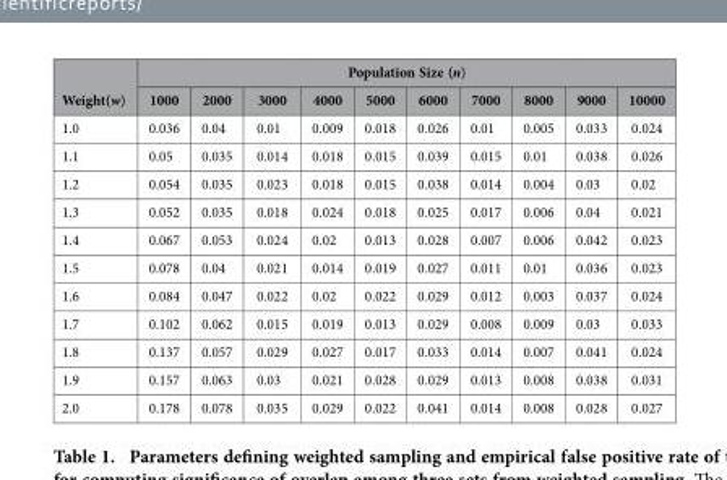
<table><thead><tr><td rowspan="2">Weight(w)</td><td colspan="10">Population Size (n)</td></tr><tr><td>1000</td><td>2000</td><td>3000</td><td>4000</td><td>5000</td><td>6000</td><td>7000</td><td>8000</td><td>9000</td><td>10000</td></tr></thead><tbody><tr><td>1.0</td><td>0.036</td><td>0.04</td><td>0.01</td><td>0.009</td><td>0.018</td><td>0.026</td><td>0.01</td><td>0.005</td><td>0.033</td><td>0.024</td></tr><tr><td>1.1</td><td>0.05</td><td>0.035</td><td>0.014</td><td>0.018</td><td>0.015</td><td>0.039</td><td>0.015</td><td>0.01</td><td>0.038</td><td>0.026</td></tr><tr><td>1.2</td><td>0.054</td><td>0.035</td><td>0.023</td><td>0.018</td><td>0.015</td><td>0.038</td><td>0.014</td><td>0.004</td><td>0.03</td><td>0.02</td></tr><tr><td>1.3</td><td>0.052</td><td>0.035</td><td>0.018</td><td>0.024</td><td>0.018</td><td>0.025</td><td>0.017</td><td>0.006</td><td>0.04</td><td>0.021</td></tr><tr><td>1.4</td><td>0.067</td><td>0.053</td><td>0.024</td><td>0.02</td><td>0.013</td><td>0.028</td><td>0.007</td><td>0.006</td><td>0.042</td><td>0.023</td></tr><tr><td>1.5</td><td>0.078</td><td>0.04</td><td>0.021</td><td>0.014</td><td>0.019</td><td>0.027</td><td>0.011</td><td>0.01</td><td>0.036</td><td>0.023</td></tr><tr><td>1.6</td><td>0.084</td><td>0.047</td><td>0.022</td><td>0.02</td><td>0.022</td><td>0.029</td><td>0.012</td><td>0.003</td><td>0.037</td><td>0.024</td></tr><tr><td>1.7</td><td>0.102</td><td>0.062</td><td>0.015</td><td>0.019</td><td>0.013</td><td>0.029</td><td>0.008</td><td>0.009</td><td>0.03</td><td>0.033</td></tr><tr><td>1.8</td><td>0.137</td><td>0.057</td><td>0.029</td><td>0.027</td><td>0.017</td><td>0.033</td><td>0.014</td><td>0.007</td><td>0.041</td><td>0.024</td></tr><tr><td>1.9</td><td>0.157</td><td>0.063</td><td>0.03</td><td>0.021</td><td>0.028</td><td>0.029</td><td>0.013</td><td>0.008</td><td>0.038</td><td>0.031</td></tr><tr><td>2.0</td><td>0.178</td><td>0.078</td><td>0.035</td><td>0.029</td><td>0.022</td><td>0.041</td><td>0.014</td><td>0.008</td><td>0.028</td><td>0.027</td></tr></tbody></table>